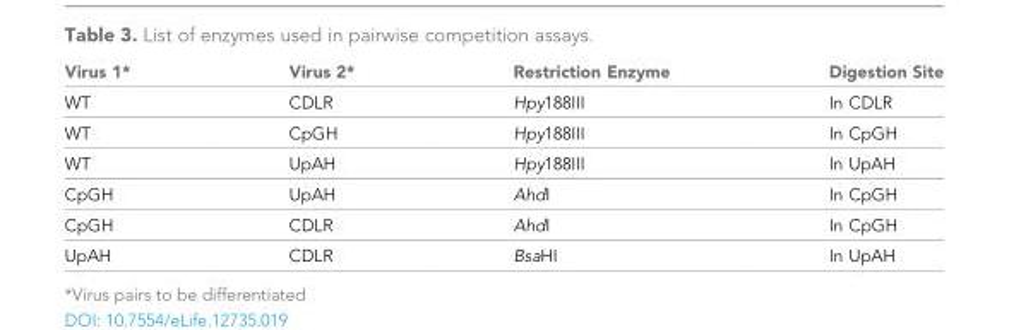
<table><thead><tr><td>Virus 1*</td><td>Virus 2*</td><td>Restriction Enzyme</td><td>Digestion Site</td></tr></thead><tbody><tr><td>WT</td><td>CDLR</td><td>Hpy188III</td><td>In CDLR</td></tr><tr><td>WT</td><td>CpGH</td><td>Hpy188III</td><td>In CpGH</td></tr><tr><td>WT</td><td>UpAH</td><td>Hpy188III</td><td>In UpAH</td></tr><tr><td>CpGH</td><td>UpAH</td><td>AhdI</td><td>In CpGH</td></tr><tr><td>CpGH</td><td>CDLR</td><td>AhdI</td><td>In CpGH</td></tr><tr><td>UpAH</td><td>CDLR</td><td>BsaHI</td><td>In UpAH</td></tr></tbody></table>